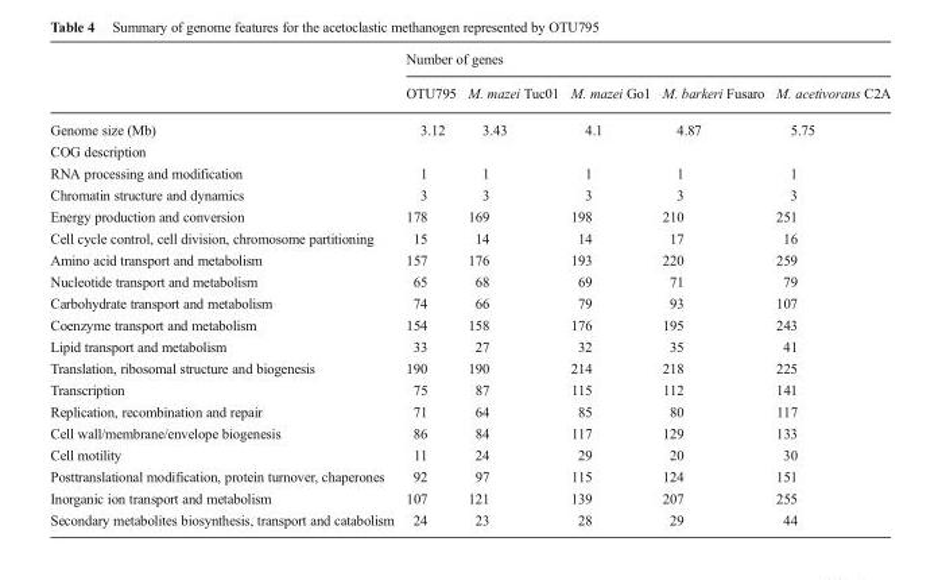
<table><thead><tr><td rowspan="2"></td><td colspan="5">Number of genes</td></tr><tr><td>OTU795</td><td>M. mazei Tuc01</td><td>M. mazei Go1</td><td>M. barkeri Fusaro</td><td>M. acetivorans C2A</td></tr></thead><tbody><tr><td>Genome size (Mb)</td><td>3.12</td><td>3.43</td><td>4.1</td><td>4.87</td><td>5.75</td></tr><tr><td colspan="6">COG description</td></tr><tr><td>RNA processing and modification</td><td>1</td><td>1</td><td>1</td><td>1</td><td>1</td></tr><tr><td>Chromatin structure and dynamics</td><td>3</td><td>3</td><td>3</td><td>3</td><td>3</td></tr><tr><td>Energy production and conversion</td><td>178</td><td>169</td><td>198</td><td>210</td><td>251</td></tr><tr><td>Cell cycle control, cell division, chromosome partitioning</td><td>15</td><td>14</td><td>14</td><td>17</td><td>16</td></tr><tr><td>Amino acid transport and metabolism</td><td>157</td><td>176</td><td>193</td><td>220</td><td>259</td></tr><tr><td>Nucleotide transport and metabolism</td><td>65</td><td>68</td><td>69</td><td>71</td><td>79</td></tr><tr><td>Carbohydrate transport and metabolism</td><td>74</td><td>66</td><td>79</td><td>93</td><td>107</td></tr><tr><td>Coenzyme transport and metabolism</td><td>154</td><td>158</td><td>176</td><td>195</td><td>243</td></tr><tr><td>Lipid transport and metabolism</td><td>33</td><td>27</td><td>32</td><td>35</td><td>41</td></tr><tr><td>Translation, ribosomal structure and biogenesis</td><td>190</td><td>190</td><td>214</td><td>218</td><td>225</td></tr><tr><td>Transcription</td><td>75</td><td>87</td><td>115</td><td>112</td><td>141</td></tr><tr><td>Replication, recombination and repair</td><td>71</td><td>64</td><td>85</td><td>80</td><td>117</td></tr><tr><td>Cell wall/membrane/envelope biogenesis</td><td>86</td><td>84</td><td>117</td><td>129</td><td>133</td></tr><tr><td>Cell motility</td><td>11</td><td>24</td><td>29</td><td>20</td><td>30</td></tr><tr><td>Posttranslational modification, protein turnover, chaperones</td><td>92</td><td>97</td><td>115</td><td>124</td><td>151</td></tr><tr><td>Inorganic ion transport and metabolism</td><td>107</td><td>121</td><td>139</td><td>207</td><td>255</td></tr><tr><td>Secondary metabolites biosynthesis, transport and catabolism</td><td>24</td><td>23</td><td>28</td><td>29</td><td>44</td></tr></tbody></table>